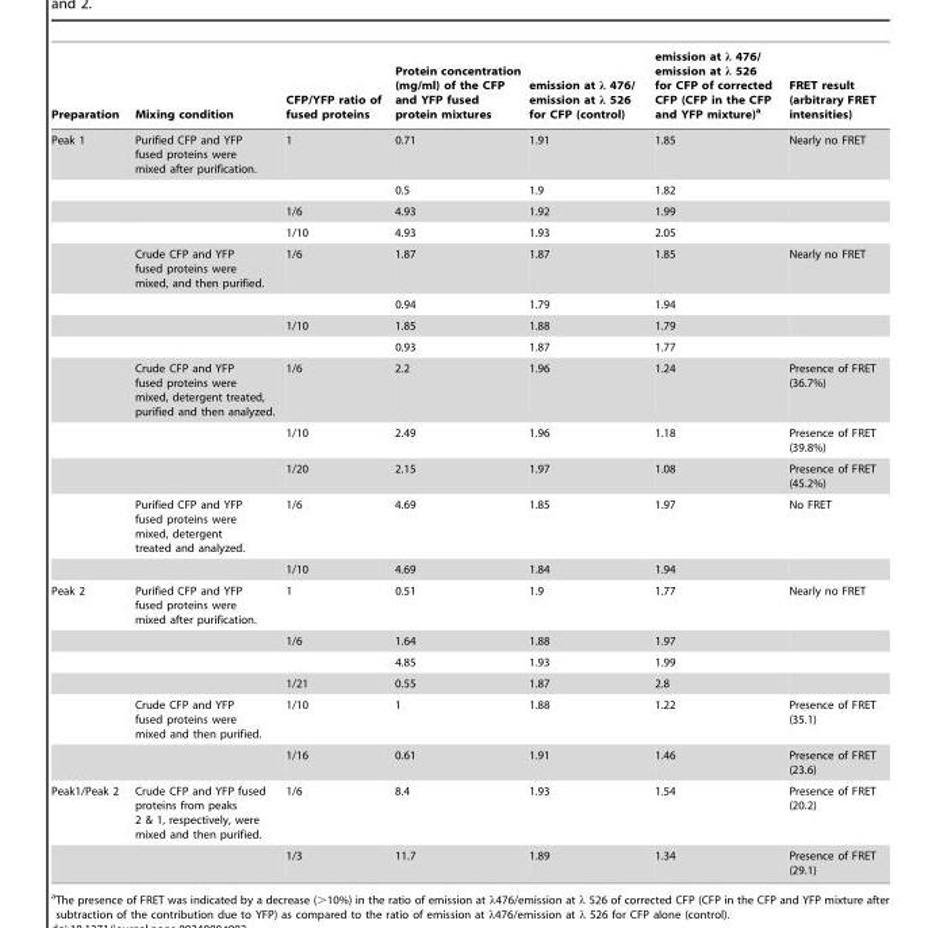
<table><thead><tr><td>Preparation</td><td>Mixing condition</td><td>CFP/YFP ratio of fused proteins</td><td>Protein concentration (mg/ml) of the CFP and YFP fused protein mixtures</td><td>emission at λ 476/ emission at λ 526 for CFP (control)</td><td>emission at λ 476/ emission at λ 526 for CFP of corrected CFP (CFP in the CFP and YFP mixture)<sup>a</sup></td><td>FRET result (arbitrary FRET intensities)</td></tr></thead><tbody><tr><td rowspan="13">Peak 1</td><td>Purified CFP and YFP fused proteins were mixed after purification.</td><td>1</td><td>0.71</td><td>1.91</td><td>1.85</td><td>Nearly no FRET</td></tr><tr><td></td><td></td><td>0.5</td><td>1.9</td><td>1.82</td><td></td></tr><tr><td></td><td>1/6</td><td>4.93</td><td>1.92</td><td>1.99</td><td></td></tr><tr><td></td><td>1/10</td><td>4.93</td><td>1.93</td><td>2.05</td><td></td></tr><tr><td>Crude CFP and YFP fused proteins were mixed, and then purified.</td><td>1/6</td><td>1.87</td><td>1.87</td><td>1.85</td><td>Nearly no FRET</td></tr><tr><td></td><td></td><td>0.94</td><td>1.79</td><td>1.94</td><td></td></tr><tr><td></td><td>1/10</td><td>1.85</td><td>1.88</td><td>1.79</td><td></td></tr><tr><td></td><td></td><td>0.93</td><td>1.87</td><td>1.77</td><td></td></tr><tr><td>Crude CFP and YFP fused proteins were mixed, detergent treated, purified and then analyzed.</td><td>1/6</td><td>2.2</td><td>1.96</td><td>1.24</td><td>Presence of FRET (36.7%)</td></tr><tr><td></td><td>1/10</td><td>2.49</td><td>1.96</td><td>1.18</td><td>Presence of FRET (39.8%)</td></tr><tr><td></td><td>1/20</td><td>2.15</td><td>1.97</td><td>1.08</td><td>Presence of FRET (45.2%)</td></tr><tr><td>Purified CFP and YFP fused proteins were mixed, detergent treated and analyzed.</td><td>1/6</td><td>4.69</td><td>1.85</td><td>1.97</td><td>No FRET</td></tr><tr><td></td><td>1/10</td><td>4.69</td><td>1.84</td><td>1.94</td><td></td></tr><tr><td rowspan="6">Peak 2</td><td>Purified CFP and YFP fused proteins were mixed after purification.</td><td>1</td><td>0.51</td><td>1.9</td><td>1.77</td><td>Nearly no FRET</td></tr><tr><td></td><td>1/6</td><td>1.64</td><td>1.88</td><td>1.97</td><td></td></tr><tr><td></td><td></td><td>4.85</td><td>1.93</td><td>1.99</td><td></td></tr><tr><td></td><td>1/21</td><td>0.55</td><td>1.87</td><td>2.8</td><td></td></tr><tr><td>Crude CFP and YFP fused proteins were mixed and then purified.</td><td>1/10</td><td>1</td><td>1.88</td><td>1.22</td><td>Presence of FRET (35.1)</td></tr><tr><td></td><td>1/16</td><td>0.61</td><td>1.91</td><td>1.46</td><td>Presence of FRET (23.6)</td></tr><tr><td rowspan="2">Peak1/Peak 2</td><td>Crude CFP and YFP fused proteins from peaks 2 &amp; 1, respectively, were mixed and then purified.</td><td>1/6</td><td>8.4</td><td>1.93</td><td>1.54</td><td>Presence of FRET (20.2)</td></tr><tr><td></td><td>1/3</td><td>11.7</td><td>1.89</td><td>1.34</td><td>Presence of FRET (29.1)</td></tr></tbody></table>